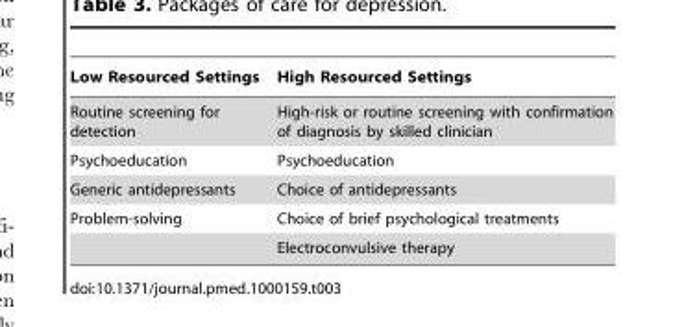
<table><thead><tr><td>Low Resourced Settings</td><td>High Resourced Settings</td></tr></thead><tbody><tr><td>Routine screening for detection</td><td>High-risk or routine screening with confirmation of diagnosis by skilled clinician</td></tr><tr><td>Psychoeducation</td><td>Psychoeducation</td></tr><tr><td>Generic antidepressants</td><td>Choice of antidepressants</td></tr><tr><td>Problem-solving</td><td>Choice of brief psychological treatments Electroconvulsive therapy</td></tr></tbody></table>